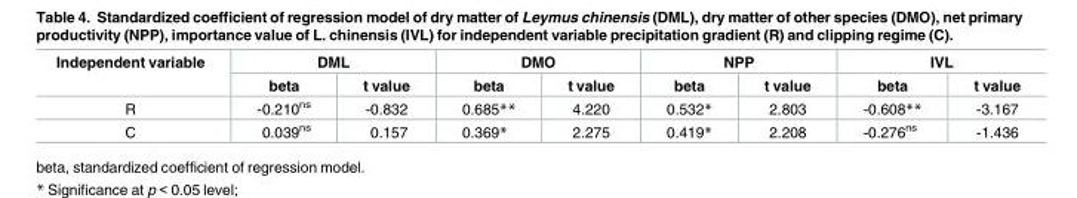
<table><thead><tr><td rowspan="2">Independent variable</td><td colspan="2">DML</td><td colspan="2">DMO</td><td colspan="2">NPP</td><td colspan="2">IVL</td></tr><tr><td>beta</td><td>t value</td><td>beta</td><td>t value</td><td>beta</td><td>t value</td><td>beta</td><td>t value</td></tr></thead><tbody><tr><td>R</td><td>-0.210<sup>ns</sup></td><td>-0.832</td><td>0.685**</td><td>4.220</td><td>0.532*</td><td>2.803</td><td>-0.608**</td><td>-3.167</td></tr><tr><td>C</td><td>0.039<sup>ns</sup></td><td>0.157</td><td>0.369*</td><td>2.275</td><td>0.419*</td><td>2.208</td><td>-0.276<sup>ns</sup></td><td>-1.436</td></tr></tbody></table>